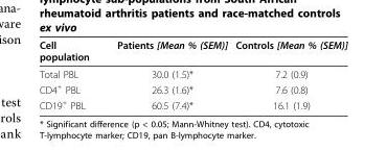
<table><thead><tr><td>Cell population</td><td>Patients [Mean % (SEM)]</td><td>Controls [Mean % (SEM)]</td></tr></thead><tbody><tr><td>Total PBL</td><td>30.0 (1.5)*</td><td>7.2 (0.9)</td></tr><tr><td>CD4<sup>+</sup> PBL</td><td>26.3 (1.6)*</td><td>7.6 (0.8)</td></tr><tr><td>CD19<sup>+</sup> PBL</td><td>60.5 (7.4)*</td><td>16.1 (1.9)</td></tr></tbody></table>